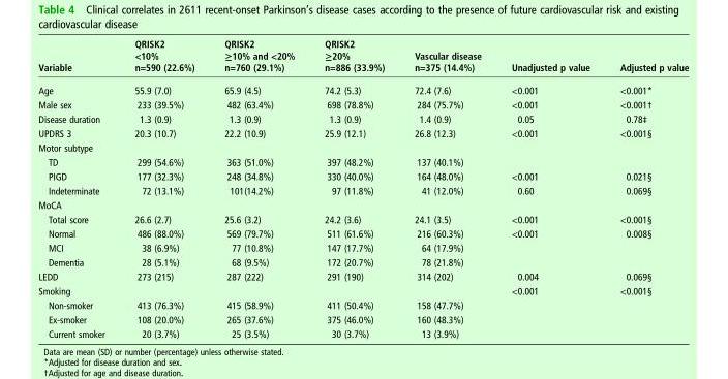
<table><thead><tr><td>Variable</td><td>QRISK2 &lt;10% n=590 (22.6%)</td><td>QRISK2 ≥10% and &lt;20% n=760 (29.1%)</td><td>QRISK2 ≥20% n=886 (33.9%)</td><td>Vascular disease n=375 (14.4%)</td><td>Unadjusted p value</td><td>Adjusted p value</td></tr></thead><tbody><tr><td>Age</td><td>55.9 (7.0)</td><td>65.9 (4.5)</td><td>74.2 (5.3)</td><td>72.4 (7.6)</td><td>&lt;0.001</td><td>&lt;0.001*</td></tr><tr><td>Male sex</td><td>233 (39.5%)</td><td>482 (63.4%)</td><td>698 (78.8%)</td><td>284 (75.7%)</td><td>&lt;0.001</td><td>&lt;0.001†</td></tr><tr><td>Disease duration</td><td>1.3 (0.9)</td><td>1.3 (0.9)</td><td>1.3 (0.9)</td><td>1.4 (0.9)</td><td>0.05</td><td>0.78‡</td></tr><tr><td>UPDRS 3</td><td>20.3 (10.7)</td><td>22.2 (10.9)</td><td>25.9 (12.1)</td><td>26.8 (12.3)</td><td>&lt;0.001</td><td>&lt;0.001§</td></tr><tr><td colspan="7">Motor subtype</td></tr><tr><td>TD</td><td>299 (54.6%)</td><td>363 (51.0%)</td><td>397 (48.2%)</td><td>137 (40.1%)</td><td></td><td></td></tr><tr><td>PIGD</td><td>177 (32.3%)</td><td>248 (34.8%)</td><td>330 (40.0%)</td><td>164 (48.0%)</td><td>&lt;0.001</td><td>0.021§</td></tr><tr><td>Indeterminate</td><td>72 (13.1%)</td><td>101(14.2%)</td><td>97 (11.8%)</td><td>41 (12.0%)</td><td>0.60</td><td>0.069§</td></tr><tr><td colspan="7">MoCA</td></tr><tr><td>Total score</td><td>26.6 (2.7)</td><td>25.6 (3.2)</td><td>24.2 (3.6)</td><td>24.1 (3.5)</td><td>&lt;0.001</td><td>&lt;0.001§</td></tr><tr><td>Normal</td><td>486 (88.0%)</td><td>569 (79.7%)</td><td>511 (61.6%)</td><td>216 (60.3%)</td><td>&lt;0.001</td><td>0.008§</td></tr><tr><td>MCI</td><td>38 (6.9%)</td><td>77 (10.8%)</td><td>147 (17.7%)</td><td>64 (17.9%)</td><td></td><td></td></tr><tr><td>Dementia</td><td>28 (5.1%)</td><td>68 (9.5%)</td><td>172 (20.7%)</td><td>78 (21.8%)</td><td></td><td></td></tr><tr><td>LEDD</td><td>273 (215)</td><td>287 (222)</td><td>291 (190)</td><td>314 (202)</td><td>0.004</td><td>0.069§</td></tr><tr><td>Smoking</td><td></td><td></td><td></td><td></td><td>&lt;0.001</td><td>&lt;0.001§</td></tr><tr><td>Non-smoker</td><td>413 (76.3%)</td><td>415 (58.9%)</td><td>411 (50.4%)</td><td>158 (47.7%)</td><td></td><td></td></tr><tr><td>Ex-smoker</td><td>108 (20.0%)</td><td>265 (37.6%)</td><td>375 (46.0%)</td><td>160 (48.3%)</td><td></td><td></td></tr><tr><td>Current smoker</td><td>20 (3.7%)</td><td>25 (3.5%)</td><td>30 (3.7%)</td><td>13 (3.9%)</td><td></td><td></td></tr></tbody></table>